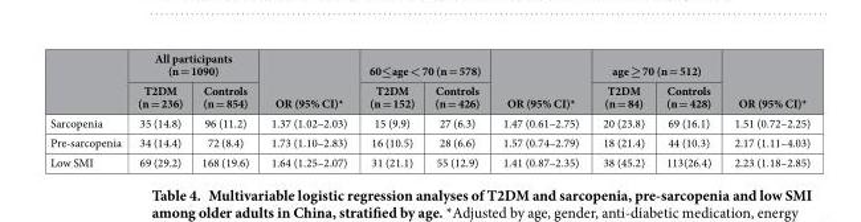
<table><thead><tr><td rowspan="2"></td><td colspan="2">All participants (n = 1090)</td><td rowspan="2">OR (95% CI)*</td><td colspan="2">60≤age &lt; 70 (n = 578)</td><td rowspan="2">OR (95% CI)*</td><td colspan="2">age ≥ 70 (n = 512)</td><td rowspan="2">OR (95% CI)*</td></tr><tr><td>T2DM (n = 236)</td><td>Controls (n = 854)</td><td>T2DM (n = 152)</td><td>Controls (n = 426)</td><td>T2DM (n = 84)</td><td>Controls (n = 428)</td></tr></thead><tbody><tr><td>Sarcopenia</td><td>35 (14.8)</td><td>96 (11.2)</td><td>1.37 (1.02–2.03)</td><td>15 (9.9)</td><td>27 (6.3)</td><td>1.47 (0.61–2.75)</td><td>20 (23.8)</td><td>69 (16.1)</td><td>1.51 (0.72–2.25)</td></tr><tr><td>Pre-sarcopenia</td><td>34 (14.4)</td><td>72 (8.4)</td><td>1.73 (1.10–2.83)</td><td>16 (10.5)</td><td>28 (6.6)</td><td>1.57 (0.74–2.79)</td><td>18 (21.4)</td><td>44 (10.3)</td><td>2.17 (1.11–4.03)</td></tr><tr><td>Low SMI</td><td>69 (29.2)</td><td>168 (19.6)</td><td>1.64 (1.25–2.07)</td><td>31 (21.1)</td><td>55 (12.9)</td><td>1.41 (0.87–2.35)</td><td>38 (45.2)</td><td>113(26.4)</td><td>2.23 (1.18–2.85)</td></tr></tbody></table>